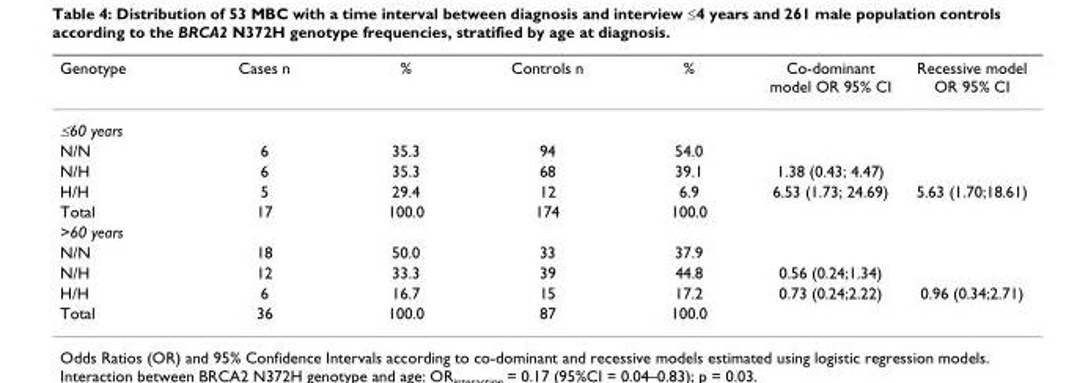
<table><thead><tr><td>Genotype</td><td>Cases n</td><td>%</td><td>Controls n</td><td>%</td><td>Co-dominant model OR 95% CI</td><td>Recessive model OR 95% CI</td></tr></thead><tbody><tr><td colspan="7">≤60 years</td></tr><tr><td>N/N</td><td>6</td><td>35.3</td><td>94</td><td>54.0</td><td></td><td></td></tr><tr><td>N/H</td><td>6</td><td>35.3</td><td>68</td><td>39.1</td><td>1.38 (0.43; 4.47)</td><td></td></tr><tr><td>H/H</td><td>5</td><td>29.4</td><td>12</td><td>6.9</td><td>6.53 (1.73; 24.69)</td><td>5.63 (1.70;18.61)</td></tr><tr><td>Total</td><td>17</td><td>100.0</td><td>174</td><td>100.0</td><td></td><td></td></tr><tr><td colspan="7">&gt;60 years</td></tr><tr><td>N/N</td><td>18</td><td>50.0</td><td>33</td><td>37.9</td><td></td><td></td></tr><tr><td>N/H</td><td>12</td><td>33.3</td><td>39</td><td>44.8</td><td>0.56 (0.24;1.34)</td><td></td></tr><tr><td>H/H</td><td>6</td><td>16.7</td><td>15</td><td>17.2</td><td>0.73 (0.24;2.22)</td><td>0.96 (0.34;2.71)</td></tr><tr><td>Total</td><td>36</td><td>100.0</td><td>87</td><td>100.0</td><td></td><td></td></tr></tbody></table>